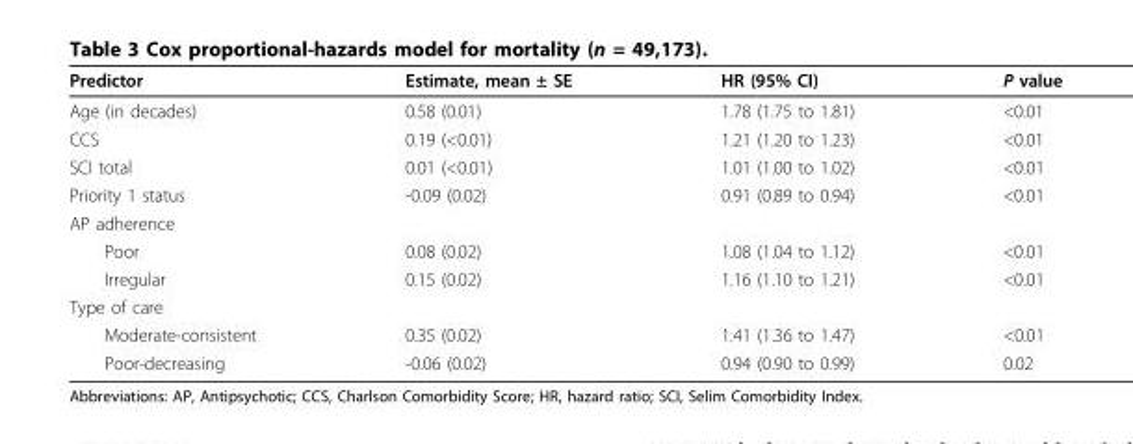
<table><thead><tr><td>Predictor</td><td>Estimate, mean ± SE</td><td>HR (95% CI)</td><td>P value</td></tr></thead><tbody><tr><td>Age (in decades)</td><td>0.58 (0.01)</td><td>1.78 (1.75 to 1.81)</td><td>&lt;0.01</td></tr><tr><td>CCS</td><td>0.19 (&lt;0.01)</td><td>1.21 (1.20 to 1.23)</td><td>&lt;0.01</td></tr><tr><td>SCI total</td><td>0.01 (&lt;0.01)</td><td>1.01 (1.00 to 1.02)</td><td>&lt;0.01</td></tr><tr><td>Priority 1 status</td><td>-0.09 (0.02)</td><td>0.91 (0.89 to 0.94)</td><td>&lt;0.01</td></tr><tr><td colspan="4">AP adherence</td></tr><tr><td>Poor</td><td>0.08 (0.02)</td><td>1.08 (1.04 to 1.12)</td><td>&lt;0.01</td></tr><tr><td>Irregular</td><td>0.15 (0.02)</td><td>1.16 (1.10 to 1.21)</td><td>&lt;0.01</td></tr><tr><td colspan="4">Type of care</td></tr><tr><td>Moderate-consistent</td><td>0.35 (0.02)</td><td>1.41 (1.36 to 1.47)</td><td>&lt;0.01</td></tr><tr><td>Poor-decreasing</td><td>-0.06 (0.02)</td><td>0.94 (0.90 to 0.99)</td><td>0.02</td></tr></tbody></table>